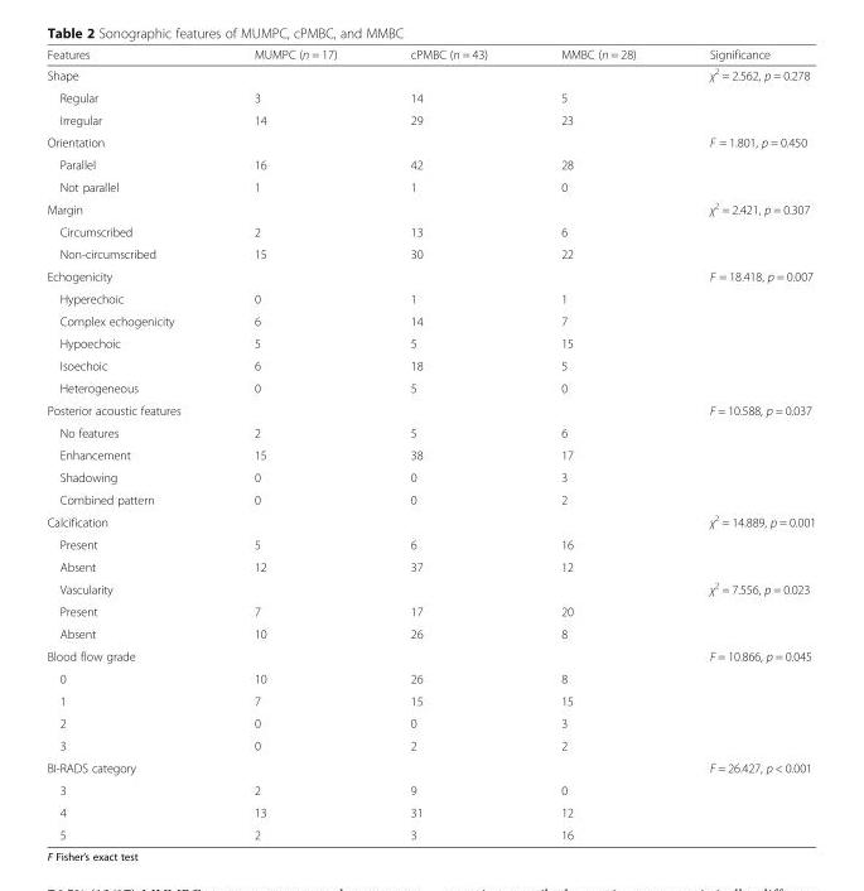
<table><thead><tr><td>Features</td><td>MUMPC (n = 17)</td><td>cPMBC (n = 43)</td><td>MMBC (n = 28)</td><td>Significance</td></tr></thead><tbody><tr><td>Shape</td><td></td><td></td><td></td><td>χ<sup>2</sup> = 2.562, p = 0.278</td></tr><tr><td>Regular</td><td>3</td><td>14</td><td>5</td><td></td></tr><tr><td>Irregular</td><td>14</td><td>29</td><td>23</td><td></td></tr><tr><td>Orientation</td><td></td><td></td><td></td><td>F = 1.801, p = 0.450</td></tr><tr><td>Parallel</td><td>16</td><td>42</td><td>28</td><td></td></tr><tr><td>Not parallel</td><td>1</td><td>1</td><td>0</td><td></td></tr><tr><td>Margin</td><td></td><td></td><td></td><td>χ<sup>2</sup> = 2.421, p = 0.307</td></tr><tr><td>Circumscribed</td><td>2</td><td>13</td><td>6</td><td></td></tr><tr><td>Non-circumscribed</td><td>15</td><td>30</td><td>22</td><td></td></tr><tr><td>Echogenicity</td><td></td><td></td><td></td><td>F = 18.418, p = 0.007</td></tr><tr><td>Hyperechoic</td><td>0</td><td>1</td><td>1</td><td></td></tr><tr><td>Complex echogenicity</td><td>6</td><td>14</td><td>7</td><td></td></tr><tr><td>Hypoechoic</td><td>5</td><td>5</td><td>15</td><td></td></tr><tr><td>Isoechoic</td><td>6</td><td>18</td><td>5</td><td></td></tr><tr><td>Heterogeneous</td><td>0</td><td>5</td><td>0</td><td></td></tr><tr><td>Posterior acoustic features</td><td></td><td></td><td></td><td>F = 10.588, p = 0.037</td></tr><tr><td>No features</td><td>2</td><td>5</td><td>6</td><td></td></tr><tr><td>Enhancement</td><td>15</td><td>38</td><td>17</td><td></td></tr><tr><td>Shadowing</td><td>0</td><td>0</td><td>3</td><td></td></tr><tr><td>Combined pattern</td><td>0</td><td>0</td><td>2</td><td></td></tr><tr><td>Calcification</td><td></td><td></td><td></td><td>χ<sup>2</sup> = 14.889, p = 0.001</td></tr><tr><td>Present</td><td>5</td><td>6</td><td>16</td><td></td></tr><tr><td>Absent</td><td>12</td><td>37</td><td>12</td><td></td></tr><tr><td>Vascularity</td><td></td><td></td><td></td><td>χ<sup>2</sup> = 7.556, p = 0.023</td></tr><tr><td>Present</td><td>7</td><td>17</td><td>20</td><td></td></tr><tr><td>Absent</td><td>10</td><td>26</td><td>8</td><td></td></tr><tr><td>Blood flow grade</td><td></td><td></td><td></td><td>F = 10.866, p = 0.045</td></tr><tr><td>0</td><td>10</td><td>26</td><td>8</td><td></td></tr><tr><td>1</td><td>7</td><td>15</td><td>15</td><td></td></tr><tr><td>2</td><td>0</td><td>0</td><td>3</td><td></td></tr><tr><td>3</td><td>0</td><td>2</td><td>2</td><td></td></tr><tr><td>BI-RADS category</td><td></td><td></td><td></td><td>F = 26.427, p &lt; 0.001</td></tr><tr><td>3</td><td>2</td><td>9</td><td>0</td><td></td></tr><tr><td>4</td><td>13</td><td>31</td><td>12</td><td></td></tr><tr><td>5</td><td>2</td><td>3</td><td>16</td><td></td></tr></tbody></table>